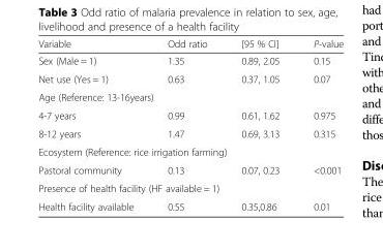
<table><thead><tr><td>Variable</td><td>Odd ratio</td><td>[95 % CI]</td><td>P-value</td></tr></thead><tbody><tr><td>Sex (Male = 1)</td><td>1.35</td><td>0.89, 2.05</td><td>0.15</td></tr><tr><td>Net use (Yes = 1)</td><td>0.63</td><td>0.37, 1.05</td><td>0.07</td></tr><tr><td colspan="4">Age (Reference: 13-16years)</td></tr><tr><td>4-7 years</td><td>0.99</td><td>0.61, 1.62</td><td>0.975</td></tr><tr><td>8-12 years</td><td>1.47</td><td>0.69, 3.13</td><td>0.315</td></tr><tr><td colspan="4">Ecosystem (Reference: rice irrigation farming)</td></tr><tr><td>Pastoral community</td><td>0.13</td><td>0.07, 0.23</td><td>&lt;0.001</td></tr><tr><td colspan="4">Presence of health facility (HF available = 1)</td></tr><tr><td>Health facility available</td><td>0.55</td><td>0.35,0.86</td><td>0.01</td></tr></tbody></table>